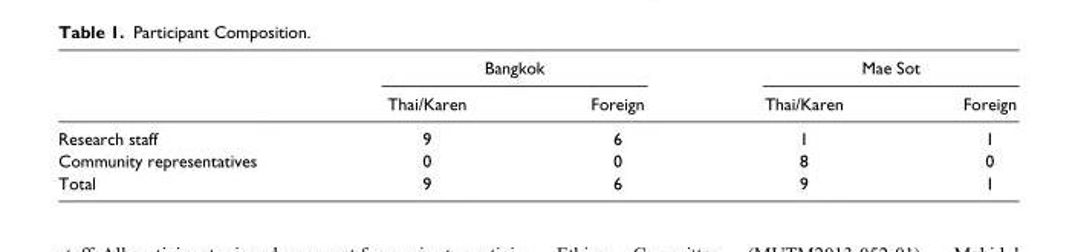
<table><thead><tr><td rowspan="2"></td><td colspan="2">Bangkok</td><td colspan="2">Mae Sot</td></tr><tr><td>Thai/Karen</td><td>Foreign</td><td>Thai/Karen</td><td>Foreign</td></tr></thead><tbody><tr><td>Research staff</td><td>9</td><td>6</td><td>1</td><td>1</td></tr><tr><td>Community representatives</td><td>0</td><td>0</td><td>8</td><td>0</td></tr><tr><td>Total</td><td>9</td><td>6</td><td>9</td><td>1</td></tr></tbody></table>